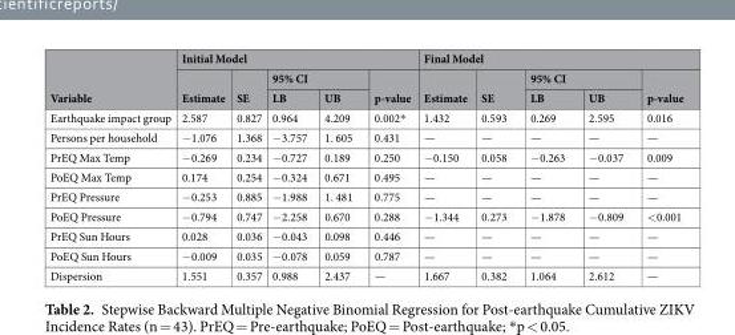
<table><thead><tr><td rowspan="3">Variable</td><td colspan="5">Initial Model</td><td colspan="5">Final Model</td></tr><tr><td rowspan="2">Estimate</td><td rowspan="2">SE</td><td colspan="2">95% CI</td><td rowspan="2">p-value</td><td rowspan="2">Estimate</td><td rowspan="2">SE</td><td colspan="2">95% CI</td><td rowspan="2">p-value</td></tr><tr><td>LB</td><td>UB</td><td>LB</td><td>UB</td></tr></thead><tbody><tr><td>Earthquake impact group</td><td>2.587</td><td>0.827</td><td>0.964</td><td>4.209</td><td>0.002*</td><td>1.432</td><td>0.593</td><td>0.269</td><td>2.595</td><td>0.016</td></tr><tr><td>Persons per household</td><td>−1.076</td><td>1.368</td><td>−3.757</td><td>1. 605</td><td>0.431</td><td>—</td><td>—</td><td>—</td><td>—</td><td>—</td></tr><tr><td>PrEQ Max Temp</td><td>−0.269</td><td>0.234</td><td>−0.727</td><td>0.189</td><td>0.250</td><td>−0.150</td><td>0.058</td><td>−0.263</td><td>−0.037</td><td>0.009</td></tr><tr><td>PoEQ Max Temp</td><td>0.174</td><td>0.254</td><td>−0.324</td><td>0.671</td><td>0.495</td><td>—</td><td>—</td><td>—</td><td>—</td><td>—</td></tr><tr><td>PrEQ Pressure</td><td>−0.253</td><td>0.885</td><td>−1.988</td><td>1. 481</td><td>0.775</td><td>—</td><td>—</td><td>—</td><td>—</td><td>—</td></tr><tr><td>PoEQ Pressure</td><td>−0.794</td><td>0.747</td><td>−2.258</td><td>0.670</td><td>0.288</td><td>−1.344</td><td>0.273</td><td>−1.878</td><td>−0.809</td><td>&lt;0.001</td></tr><tr><td>PrEQ Sun Hours</td><td>0.028</td><td>0.036</td><td>−0.043</td><td>0.098</td><td>0.446</td><td>—</td><td>—</td><td>—</td><td>—</td><td>—</td></tr><tr><td>PoEQ Sun Hours</td><td>−0.009</td><td>0.035</td><td>−0.078</td><td>0.059</td><td>0.787</td><td>—</td><td>—</td><td>—</td><td>—</td><td>—</td></tr><tr><td>Dispersion</td><td>1.551</td><td>0.357</td><td>0.988</td><td>2.437</td><td>—</td><td>1.667</td><td>0.382</td><td>1.064</td><td>2.612</td><td>—</td></tr></tbody></table>